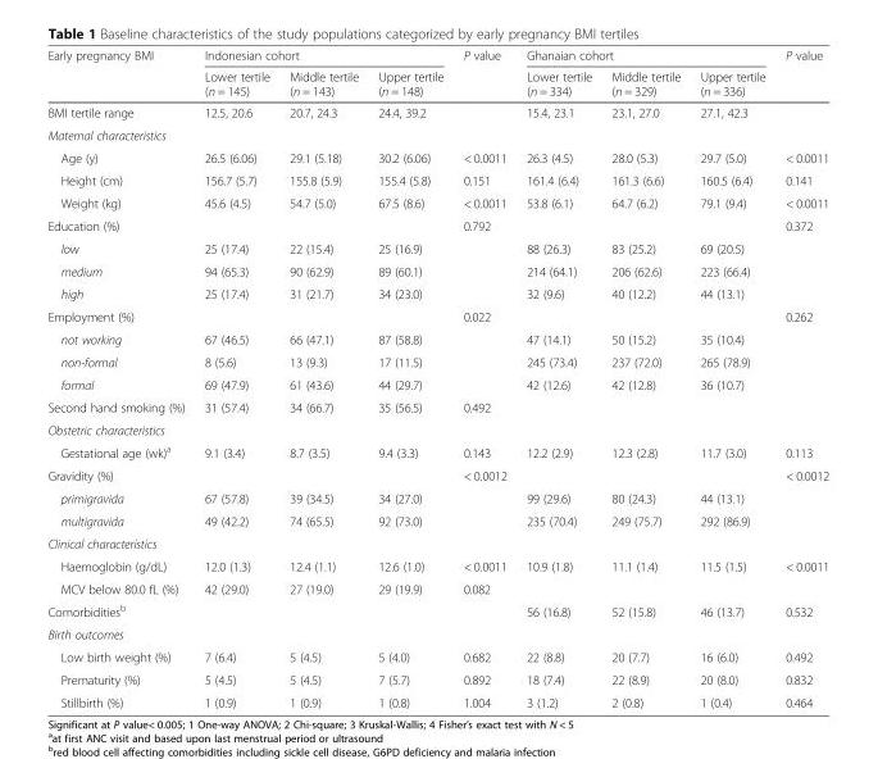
<table><thead><tr><td rowspan="2">Early pregnancy BMI</td><td colspan="3">Indonesian cohort</td><td rowspan="2">P value</td><td colspan="3">Ghanaian cohort</td><td rowspan="2">P value</td></tr><tr><td>Lower tertile (n = 145)</td><td>Middle tertile (n = 143)</td><td>Upper tertile (n = 148)</td><td>Lower tertile (n = 334)</td><td>Middle tertile (n = 329)</td><td>Upper tertile (n = 336)</td></tr></thead><tbody><tr><td>BMI tertile range</td><td>12.5, 20.6</td><td>20.7, 24.3</td><td>24.4, 39.2</td><td></td><td>15.4, 23.1</td><td>23.1, 27.0</td><td>27.1, 42.3</td><td></td></tr><tr><td colspan="9">Maternal characteristics</td></tr><tr><td>Age (y)</td><td>26.5 (6.06)</td><td>29.1 (5.18)</td><td>30.2 (6.06)</td><td>&lt; 0.0011</td><td>26.3 (4.5)</td><td>28.0 (5.3)</td><td>29.7 (5.0)</td><td>&lt; 0.0011</td></tr><tr><td>Height (cm)</td><td>156.7 (5.7)</td><td>155.8 (5.9)</td><td>155.4 (5.8)</td><td>0.151</td><td>161.4 (6.4)</td><td>161.3 (6.6)</td><td>160.5 (6.4)</td><td>0.141</td></tr><tr><td>Weight (kg)</td><td>45.6 (4.5)</td><td>54.7 (5.0)</td><td>67.5 (8.6)</td><td>&lt; 0.0011</td><td>53.8 (6.1)</td><td>64.7 (6.2)</td><td>79.1 (9.4)</td><td>&lt; 0.0011</td></tr><tr><td>Education (%)</td><td></td><td></td><td></td><td>0.792</td><td></td><td></td><td></td><td>0.372</td></tr><tr><td>low</td><td>25 (17.4)</td><td>22 (15.4)</td><td>25 (16.9)</td><td></td><td>88 (26.3)</td><td>83 (25.2)</td><td>69 (20.5)</td><td></td></tr><tr><td>medium</td><td>94 (65.3)</td><td>90 (62.9)</td><td>89 (60.1)</td><td></td><td>214 (64.1)</td><td>206 (62.6)</td><td>223 (66.4)</td><td></td></tr><tr><td>high</td><td>25 (17.4)</td><td>31 (21.7)</td><td>34 (23.0)</td><td></td><td>32 (9.6)</td><td>40 (12.2)</td><td>44 (13.1)</td><td></td></tr><tr><td>Employment (%)</td><td></td><td></td><td></td><td>0.022</td><td></td><td></td><td></td><td>0.262</td></tr><tr><td>not working</td><td>67 (46.5)</td><td>66 (47.1)</td><td>87 (58.8)</td><td></td><td>47 (14.1)</td><td>50 (15.2)</td><td>35 (10.4)</td><td></td></tr><tr><td>non-formal</td><td>8 (5.6)</td><td>13 (9.3)</td><td>17 (11.5)</td><td></td><td>245 (73.4)</td><td>237 (72.0)</td><td>265 (78.9)</td><td></td></tr><tr><td>formal</td><td>69 (47.9)</td><td>61 (43.6)</td><td>44 (29.7)</td><td></td><td>42 (12.6)</td><td>42 (12.8)</td><td>36 (10.7)</td><td></td></tr><tr><td>Second hand smoking (%)</td><td>31 (57.4)</td><td>34 (66.7)</td><td>35 (56.5)</td><td>0.492</td><td></td><td></td><td></td><td></td></tr><tr><td colspan="9">Obstetric characteristics</td></tr><tr><td>Gestational age (wk)<sup>a</sup></td><td>9.1 (3.4)</td><td>8.7 (3.5)</td><td>9.4 (3.3)</td><td>0.143</td><td>12.2 (2.9)</td><td>12.3 (2.8)</td><td>11.7 (3.0)</td><td>0.113</td></tr><tr><td>Gravidity (%)</td><td></td><td></td><td></td><td>&lt; 0.0012</td><td></td><td></td><td></td><td>&lt; 0.0012</td></tr><tr><td>primigravida</td><td>67 (57.8)</td><td>39 (34.5)</td><td>34 (27.0)</td><td></td><td>99 (29.6)</td><td>80 (24.3)</td><td>44 (13.1)</td><td></td></tr><tr><td>multigravida</td><td>49 (42.2)</td><td>74 (65.5)</td><td>92 (73.0)</td><td></td><td>235 (70.4)</td><td>249 (75.7)</td><td>292 (86.9)</td><td></td></tr><tr><td colspan="9">Clinical characteristics</td></tr><tr><td>Haemoglobin (g/dL)</td><td>12.0 (1.3)</td><td>12.4 (1.1)</td><td>12.6 (1.0)</td><td>&lt; 0.0011</td><td>10.9 (1.8)</td><td>11.1 (1.4)</td><td>11.5 (1.5)</td><td>&lt; 0.0011</td></tr><tr><td>MCV below 80.0 fL (%)</td><td>42 (29.0)</td><td>27 (19.0)</td><td>29 (19.9)</td><td>0.082</td><td></td><td></td><td></td><td></td></tr><tr><td>Comorbidities<sup>b</sup></td><td></td><td></td><td></td><td></td><td>56 (16.8)</td><td>52 (15.8)</td><td>46 (13.7)</td><td>0.532</td></tr><tr><td colspan="9">Birth outcomes</td></tr><tr><td>Low birth weight (%)</td><td>7 (6.4)</td><td>5 (4.5)</td><td>5 (4.0)</td><td>0.682</td><td>22 (8.8)</td><td>20 (7.7)</td><td>16 (6.0)</td><td>0.492</td></tr><tr><td>Prematurity (%)</td><td>5 (4.5)</td><td>5 (4.5)</td><td>7 (5.7)</td><td>0.892</td><td>18 (7.4)</td><td>22 (8.9)</td><td>20 (8.0)</td><td>0.832</td></tr><tr><td>Stillbirth (%)</td><td>1 (0.9)</td><td>1 (0.9)</td><td>1 (0.8)</td><td>1.004</td><td>3 (1.2)</td><td>2 (0.8)</td><td>1 (0.4)</td><td>0.464</td></tr></tbody></table>